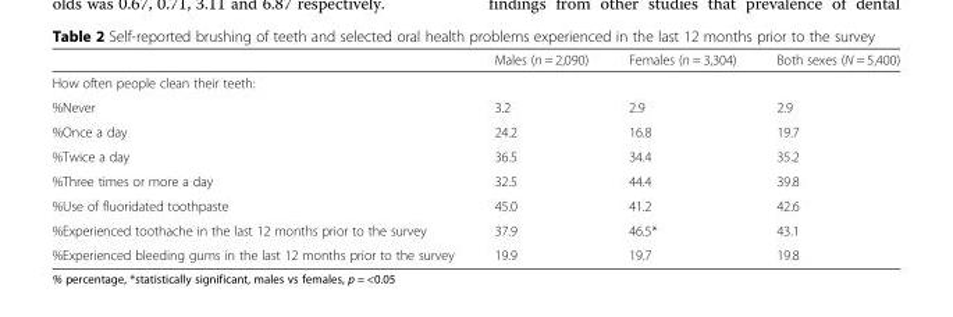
<table><thead><tr><td></td><td>Males (n = 2,090)</td><td>Females (n = 3,304)</td><td>Both sexes (N = 5,400)</td></tr></thead><tbody><tr><td colspan="4">How often people clean their teeth:</td></tr><tr><td>%Never</td><td>3.2</td><td>2.9</td><td>2.9</td></tr><tr><td>%Once a day</td><td>24.2</td><td>16.8</td><td>19.7</td></tr><tr><td>%Twice a day</td><td>36.5</td><td>34.4</td><td>35.2</td></tr><tr><td>%Three times or more a day</td><td>32.5</td><td>44.4</td><td>39.8</td></tr><tr><td>%Use of fluoridated toothpaste</td><td>45.0</td><td>41.2</td><td>42.6</td></tr><tr><td>%Experienced toothache in the last 12 months prior to the survey</td><td>37.9</td><td>46.5*</td><td>43.1</td></tr><tr><td>%Experienced bleeding gums in the last 12 months prior to the survey</td><td>19.9</td><td>19.7</td><td>19.8</td></tr></tbody></table>